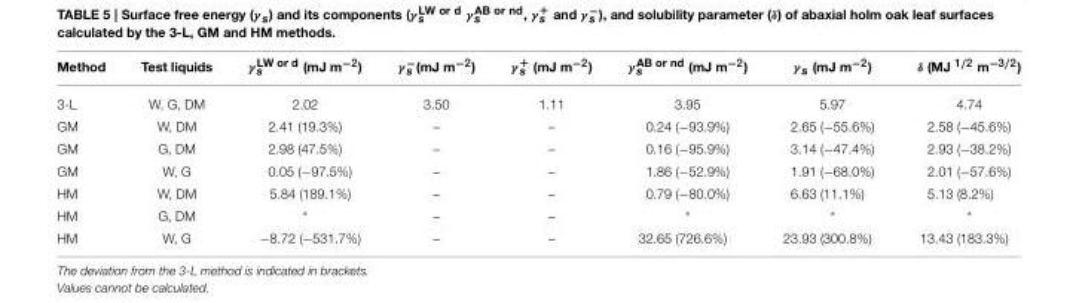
<table><thead><tr><td>Method</td><td>Test liquids</td><td>γ <sup>LW or d</sup> <sub>s</sub> (mJ m<sup>−2</sup>)</td><td>γ <sup>−</sup><sub>s</sub> (mJ m<sup>−2</sup>)</td><td>γ <sup>+</sup> <sub>s</sub> (mJ m<sup>−2</sup>)</td><td>γ <sup>AB or nd</sup> <sub>s</sub> (mJ m<sup>−2</sup>)</td><td>γ <sub>s</sub> (mJ m<sup>−2</sup>)</td><td>δ (MJ <sup>1/2</sup> m<sup>−3/2</sup>)</td></tr></thead><tbody><tr><td>3-L</td><td>W, G, DM</td><td>2.02</td><td>3.50</td><td>1.11</td><td>3.95</td><td>5.97</td><td>4.74</td></tr><tr><td>GM</td><td>W, DM</td><td>2.41 (19.3%)</td><td>–</td><td>–</td><td>0.24 (−93.9%)</td><td>2.65 (−55.6%)</td><td>2.58 (−45.6%)</td></tr><tr><td>GM</td><td>G, DM</td><td>2.98 (47.5%)</td><td>–</td><td>–</td><td>0.16 (−95.9%)</td><td>3.14 (−47.4%)</td><td>2.93 (−38.2%)</td></tr><tr><td>GM</td><td>W, G</td><td>0.05 (−97.5%)</td><td>–</td><td>–</td><td>1.86 (−52.9%)</td><td>1.91 (−68.0%)</td><td>2.01 (−57.6%)</td></tr><tr><td>HM</td><td>W, DM</td><td>5.84 (189.1%)</td><td>–</td><td>–</td><td>0.79 (−80.0%)</td><td>6.63 (11.1%)</td><td>5.13 (8.2%)</td></tr><tr><td>HM</td><td>G, DM</td><td>*</td><td>–</td><td>–</td><td>*</td><td>*</td><td>*</td></tr><tr><td>HM</td><td>W, G</td><td>−8.72 (−531.7%)</td><td>–</td><td>–</td><td>32.65 (726.6%)</td><td>23.93 (300.8%)</td><td>13.43 (183.3%)</td></tr></tbody></table>